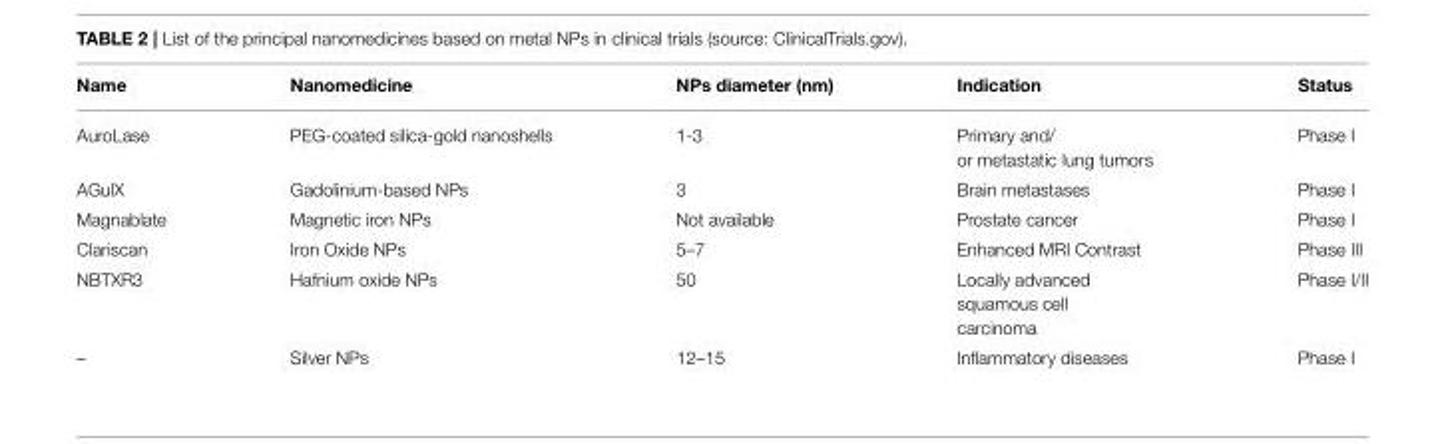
<table><thead><tr><td>Name</td><td>Nanomedicine</td><td>NPs diameter (nm)</td><td>Indication</td><td>Status</td></tr></thead><tbody><tr><td>AuroLase</td><td>PEG-coated silica-gold nanoshells</td><td>1-3</td><td>Primary and/ or metastatic lung tumors</td><td>Phase I</td></tr><tr><td>AGulX</td><td>Gadolinium-based NPs</td><td>3</td><td>Brain metastases</td><td>Phase I</td></tr><tr><td>Magnablate</td><td>Magnetic iron NPs</td><td>Not available</td><td>Prostate cancer</td><td>Phase I</td></tr><tr><td>Clariscan</td><td>Iron Oxide NPs</td><td>5–7</td><td>Enhanced MRI Contrast</td><td>Phase III</td></tr><tr><td>NBTXR3</td><td>Hafnium oxide NPs</td><td>50</td><td>Locally advanced squamous cell carcinoma</td><td>Phase I/II</td></tr><tr><td>–</td><td>Silver NPs</td><td>12–15</td><td>Inflammatory diseases</td><td>Phase I</td></tr></tbody></table>